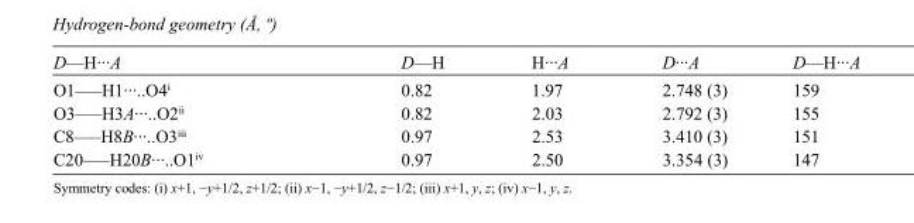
<table><tbody><tr><td>D—H···A</td><td>D—H</td><td>H···A</td><td>D···A</td><td>D—H···A</td></tr><tr><td>O1—–H1···..O4<sup>i</sup></td><td>0.82</td><td>1.97</td><td>2.748 (3)</td><td>159</td></tr><tr><td>O3—–H3A···..O2<sup>ii</sup></td><td>0.82</td><td>2.03</td><td>2.792 (3)</td><td>155</td></tr><tr><td>C8—–H8B···..O3<sup>iii</sup></td><td>0.97</td><td>2.53</td><td>3.410 (3)</td><td>151</td></tr><tr><td>C20—–H20B···..O1<sup>iv</sup></td><td>0.97</td><td>2.50</td><td>3.354 (3)</td><td>147</td></tr></tbody></table>